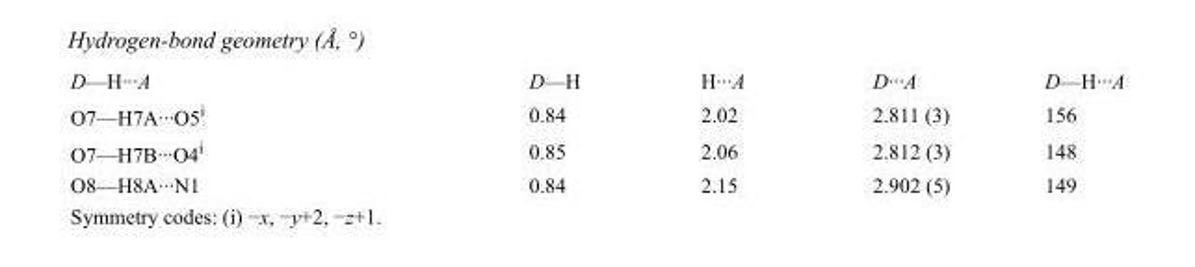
<table><tbody><tr><td>D—H···A</td><td>D—H</td><td>H···A</td><td>D···A</td><td>D—H···A</td></tr><tr><td>O7—H7A···O5<sup>i</sup></td><td>0.84</td><td>2.02</td><td>2.811 (3)</td><td>156</td></tr><tr><td>O7—H7B···O4<sup>i</sup></td><td>0.85</td><td>2.06</td><td>2.812 (3)</td><td>148</td></tr><tr><td>O8—H8A···N1</td><td>0.84</td><td>2.15</td><td>2.902 (5)</td><td>149</td></tr></tbody></table>